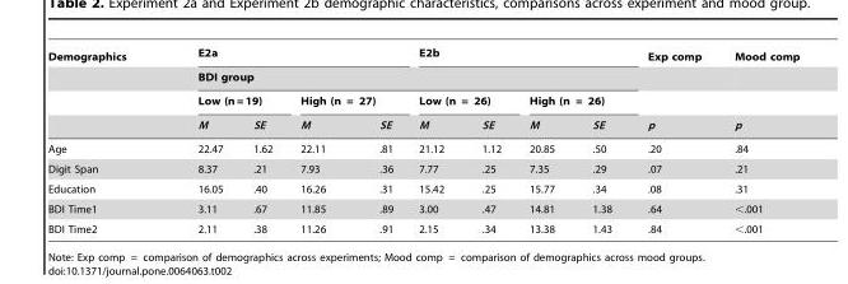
<table><thead><tr><td rowspan="4">Demographics</td><td colspan="4">E2a</td><td colspan="4">E2b</td><td rowspan="4">Exp comp p</td><td rowspan="4">Mood comp p</td></tr><tr><td colspan="8">BDI group</td></tr><tr><td colspan="2">Low (n = 19)</td><td colspan="2">High (n = 27)</td><td colspan="2">Low (n = 26)</td><td colspan="2">High (n = 26)</td></tr><tr><td>M</td><td>SE</td><td>M</td><td>SE</td><td>M</td><td>SE</td><td>M</td><td>SE</td></tr></thead><tbody><tr><td>Age</td><td>22.47</td><td>1.62</td><td>22.11</td><td>.81</td><td>21.12</td><td>1.12</td><td>20.85</td><td>.50</td><td>.20</td><td>.84</td></tr><tr><td>Digit Span</td><td>8.37</td><td>.21</td><td>7.93</td><td>.36</td><td>7.77</td><td>.25</td><td>7.35</td><td>.29</td><td>.07</td><td>.21</td></tr><tr><td>Education</td><td>16.05</td><td>.40</td><td>16.26</td><td>.31</td><td>15.42</td><td>.25</td><td>15.77</td><td>.34</td><td>.08</td><td>.31</td></tr><tr><td>BDI Time1</td><td>3.11</td><td>.67</td><td>11.85</td><td>.89</td><td>3.00</td><td>.47</td><td>14.81</td><td>1.38</td><td>.64</td><td>&lt;.001</td></tr><tr><td>BDI Time2</td><td>2.11</td><td>.38</td><td>11.26</td><td>.91</td><td>2.15</td><td>.34</td><td>13.38</td><td>1.43</td><td>.84</td><td>&lt;.001</td></tr></tbody></table>